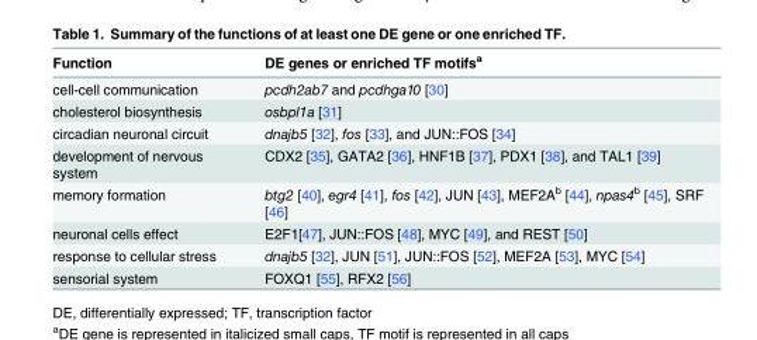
<table><thead><tr><td>Function</td><td>DE genes or enriched TF motifs<sup>a</sup></td></tr></thead><tbody><tr><td>cell-cell communication</td><td>pcdh2ab7 and pcdhga10 [30]</td></tr><tr><td>cholesterol biosynthesis</td><td>osbpl1a [31]</td></tr><tr><td>circadian neuronal circuit</td><td>dnajb5 [32], fos [33], and JUN::FOS [34]</td></tr><tr><td>development of nervous system</td><td>CDX2 [35], GATA2 [36], HNF1B [37], PDX1 [38], and TAL1 [39]</td></tr><tr><td>memory formation</td><td>btg2 [40], egr4 [41], fos [42], JUN [43], MEF2A<sup>b</sup> [44], npas4<sup>b</sup> [45], SRF [46]</td></tr><tr><td>neuronal cells effect</td><td>E2F1[47], JUN::FOS [48], MYC [49], and REST [50]</td></tr><tr><td>response to cellular stress</td><td>dnajb5 [32], JUN [51], JUN::FOS [52], MEF2A [53], MYC [54]</td></tr><tr><td>sensorial system</td><td>FOXQ1 [55], RFX2 [56]</td></tr></tbody></table>